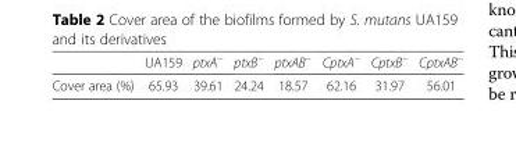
<table><thead><tr><td></td><td>UA159</td><td>ptxA<sup>−</sup></td><td>ptxB<sup>−</sup></td><td>ptxAB<sup>−</sup></td><td>CptxA<sup>−</sup></td><td>CptxB<sup>−</sup></td><td>CptxAB<sup>−</sup></td></tr></thead><tbody><tr><td>Cover area (%)</td><td>65.93</td><td>39.61</td><td>24.24</td><td>18.57</td><td>62.16</td><td>31.97</td><td>56.01</td></tr></tbody></table>